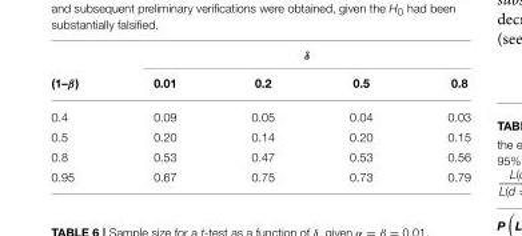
<table><thead><tr><td rowspan="2">(1–β)</td><td colspan="4">δ</td></tr><tr><td>0.01</td><td>0.2</td><td>0.5</td><td>0.8</td></tr></thead><tbody><tr><td>0.4</td><td>0.09</td><td>0.05</td><td>0.04</td><td>0.03</td></tr><tr><td>0.5</td><td>0.20</td><td>0.14</td><td>0.20</td><td>0.15</td></tr><tr><td>0.8</td><td>0.53</td><td>0.47</td><td>0.53</td><td>0.56</td></tr><tr><td>0.95</td><td>0.67</td><td>0.75</td><td>0.73</td><td>0.79</td></tr></tbody></table>